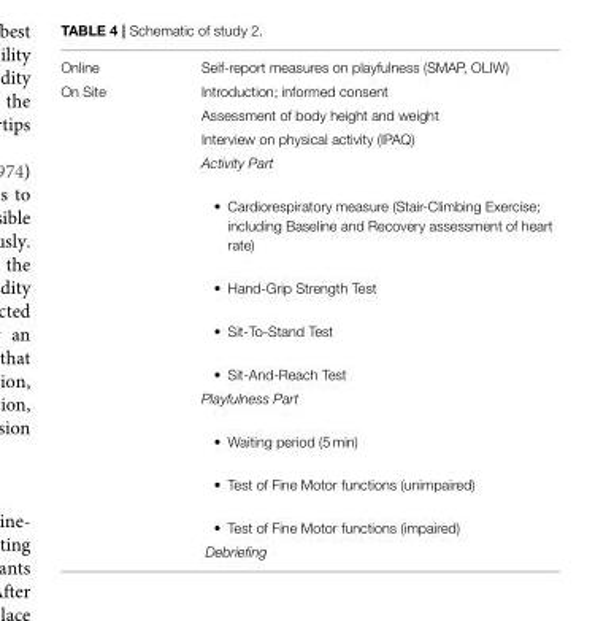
<table><tbody><tr><td>Online</td><td>Self-report measures on playfulness (SMAP, OLIW)</td></tr><tr><td rowspan="13">On Site</td><td>Introduction; informed consent</td></tr><tr><td>Assessment of body height and weight</td></tr><tr><td>Interview on physical activity (IPAQ)</td></tr><tr><td>Activity Part</td></tr><tr><td>• Cardiorespiratory measure (Stair-Climbing Exercise; including Baseline and Recovery assessment of heart rate)</td></tr><tr><td>• Hand-Grip Strength Test</td></tr><tr><td>• Sit-To-Stand Test</td></tr><tr><td>• Sit-And-Reach Test</td></tr><tr><td>Playfulness Part</td></tr><tr><td>• Waiting period (5 min)</td></tr><tr><td>• Test of Fine Motor functions (unimpaired)</td></tr><tr><td>• Test of Fine Motor functions (impaired)</td></tr><tr><td>Debriefing</td></tr></tbody></table>